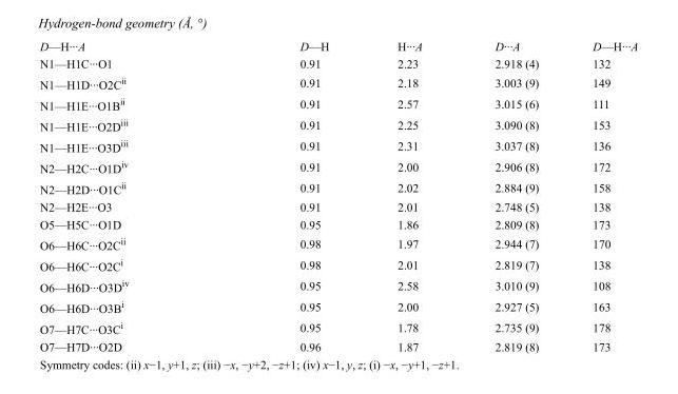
<table><tbody><tr><td>D—H···A</td><td>D—H</td><td>H···A</td><td>D···A</td><td>D—H···A</td></tr><tr><td>N1—H1C···O1</td><td>0.91</td><td>2.23</td><td>2.918 (4)</td><td>132</td></tr><tr><td>N1—H1D···O2C<sup>ii</sup></td><td>0.91</td><td>2.18</td><td>3.003 (9)</td><td>149</td></tr><tr><td>N1—H1E···O1B<sup>ii</sup></td><td>0.91</td><td>2.57</td><td>3.015 (6)</td><td>111</td></tr><tr><td>N1—H1E···O2D<sup>iii</sup></td><td>0.91</td><td>2.25</td><td>3.090 (8)</td><td>153</td></tr><tr><td>N1—H1E···O3D<sup>iii</sup></td><td>0.91</td><td>2.31</td><td>3.037 (8)</td><td>136</td></tr><tr><td>N2—H2C···O1D<sup>iv</sup></td><td>0.91</td><td>2.00</td><td>2.906 (8)</td><td>172</td></tr><tr><td>N2—H2D···O1C<sup>ii</sup></td><td>0.91</td><td>2.02</td><td>2.884 (9)</td><td>158</td></tr><tr><td>N2—H2E···O3</td><td>0.91</td><td>2.01</td><td>2.748 (5)</td><td>138</td></tr><tr><td>O5—H5C···O1D</td><td>0.95</td><td>1.86</td><td>2.809 (8)</td><td>173</td></tr><tr><td>O6—H6C···O2C<sup>ii</sup></td><td>0.98</td><td>1.97</td><td>2.944 (7)</td><td>170</td></tr><tr><td>O6—H6C···O2C<sup>i</sup></td><td>0.98</td><td>2.01</td><td>2.819 (7)</td><td>138</td></tr><tr><td>O6—H6D···O3D<sup>iv</sup></td><td>0.95</td><td>2.58</td><td>3.010 (9)</td><td>108</td></tr><tr><td>O6—H6D···O3B<sup>i</sup></td><td>0.95</td><td>2.00</td><td>2.927 (5)</td><td>163</td></tr><tr><td>O7—H7C···O3C<sup>i</sup></td><td>0.95</td><td>1.78</td><td>2.735 (9)</td><td>178</td></tr><tr><td>O7—H7D···O2D</td><td>0.96</td><td>1.87</td><td>2.819 (8)</td><td>173</td></tr></tbody></table>